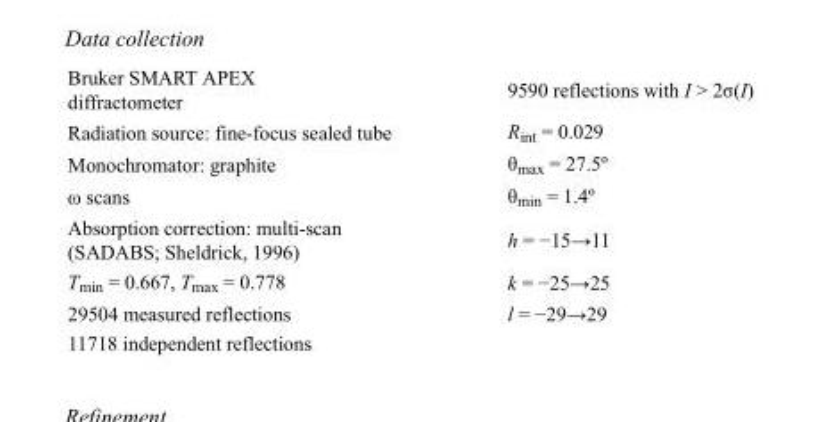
<table><tbody><tr><td>Bruker SMART APEX diffractometer</td><td>9590 reflections with I &gt; 2σ(I)</td></tr><tr><td>Radiation source: fine-focus sealed tube</td><td>R<sub>int</sub> = 0.029</td></tr><tr><td>Monochromator: graphite</td><td>θ<sub>max</sub> = 27.5º</td></tr><tr><td>ω scans</td><td>θ<sub>min</sub> = 1.4º</td></tr><tr><td>Absorption correction: multi-scan (SADABS; Sheldrick, 1996)</td><td>h = −15→11</td></tr><tr><td>T<sub>min</sub> = 0.667, T<sub>max</sub> = 0.778</td><td>k = −25→25</td></tr><tr><td>29504 measured reflections</td><td>l = −29→29</td></tr><tr><td>11718 independent reflections</td><td></td></tr></tbody></table>